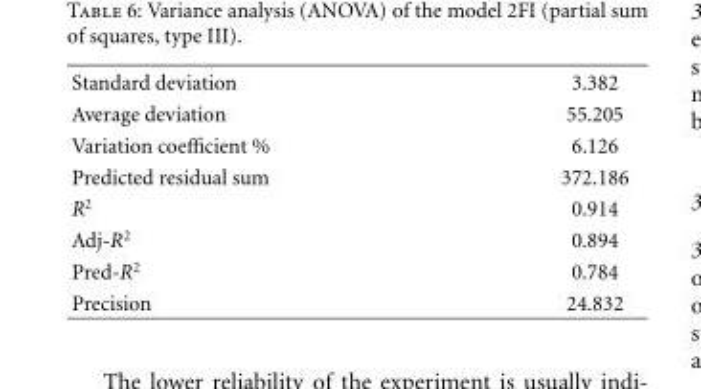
<table><tbody><tr><td>Standard deviation</td><td>3.382</td></tr><tr><td>Average deviation</td><td>55.205</td></tr><tr><td>Variation coefficient %</td><td>6.126</td></tr><tr><td>Predicted residual sum</td><td>372.186</td></tr><tr><td>R<sup>2</sup></td><td>0.914</td></tr><tr><td>Adj-R<sup>2</sup></td><td>0.894</td></tr><tr><td>Pred-R<sup>2</sup></td><td>0.784</td></tr><tr><td>Precision</td><td>24.832</td></tr></tbody></table>